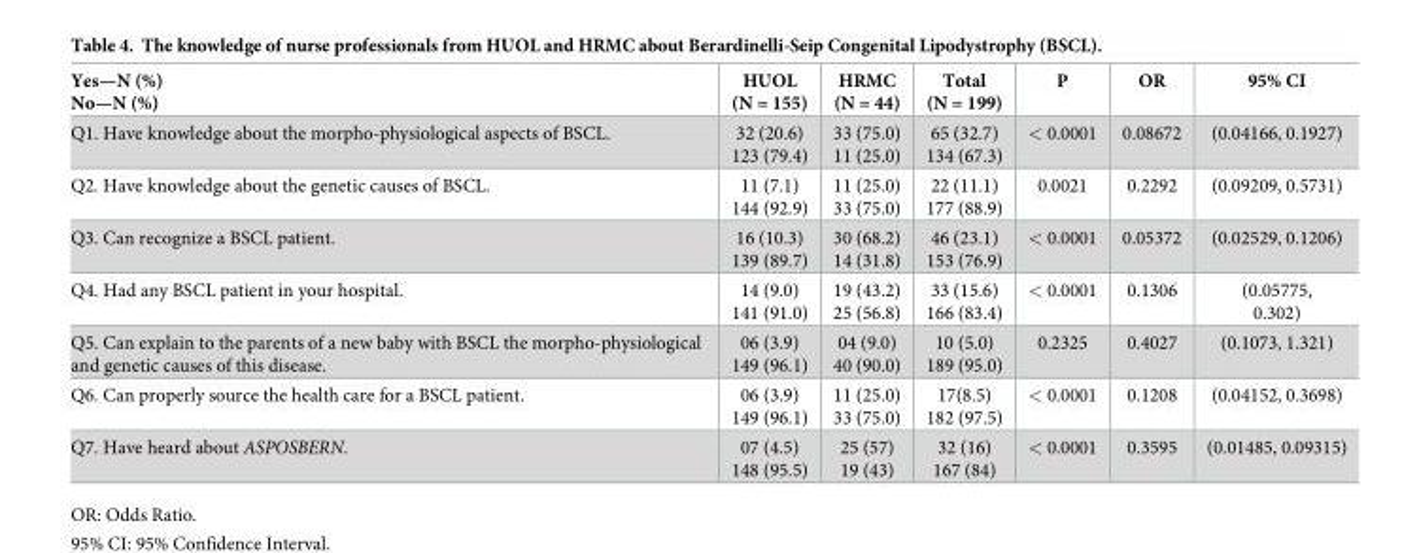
<table><thead><tr><td>Yes—N (%) No—N (%)</td><td>HUOL (N = 155)</td><td>HRMC (N = 44)</td><td>Total (N = 199)</td><td>P</td><td>OR</td><td>95% CI</td></tr></thead><tbody><tr><td>Q1. Have knowledge about the morpho-physiological aspects of BSCL.</td><td>32 (20.6) 123 (79.4)</td><td>33 (75.0) 11 (25.0)</td><td>65 (32.7) 134 (67.3)</td><td>&lt; 0.0001</td><td>0.08672</td><td>(0.04166, 0.1927)</td></tr><tr><td>Q2. Have knowledge about the genetic causes of BSCL.</td><td>11 (7.1) 144 (92.9)</td><td>11 (25.0) 33 (75.0)</td><td>22 (11.1) 177 (88.9)</td><td>0.0021</td><td>0.2292</td><td>(0.09209, 0.5731)</td></tr><tr><td>Q3. Can recognize a BSCL patient.</td><td>16 (10.3) 139 (89.7)</td><td>30 (68.2) 14 (31.8)</td><td>46 (23.1) 153 (76.9)</td><td>&lt; 0.0001</td><td>0.05372</td><td>(0.02529, 0.1206)</td></tr><tr><td>Q4. Had any BSCL patient in your hospital.</td><td>14 (9.0) 141 (91.0)</td><td>19 (43.2) 25 (56.8)</td><td>33 (15.6) 166 (83.4)</td><td>&lt; 0.0001</td><td>0.1306</td><td>(0.05775, 0.302)</td></tr><tr><td>Q5. Can explain to the parents of a new baby with BSCL the morpho-physiological and genetic causes of this disease.</td><td>06 (3.9) 149 (96.1)</td><td>04 (9.0) 40 (90.0)</td><td>10 (5.0) 189 (95.0)</td><td>0.2325</td><td>0.4027</td><td>(0.1073, 1.321)</td></tr><tr><td>Q6. Can properly source the health care for a BSCL patient.</td><td>06 (3.9) 149 (96.1)</td><td>11 (25.0) 33 (75.0)</td><td>17(8.5) 182 (97.5)</td><td>&lt; 0.0001</td><td>0.1208</td><td>(0.04152, 0.3698)</td></tr><tr><td>Q7. Have heard about ASPOSBERN.</td><td>07 (4.5) 148 (95.5)</td><td>25 (57) 19 (43)</td><td>32 (16) 167 (84)</td><td>&lt; 0.0001</td><td>0.3595</td><td>(0.01485, 0.09315)</td></tr></tbody></table>